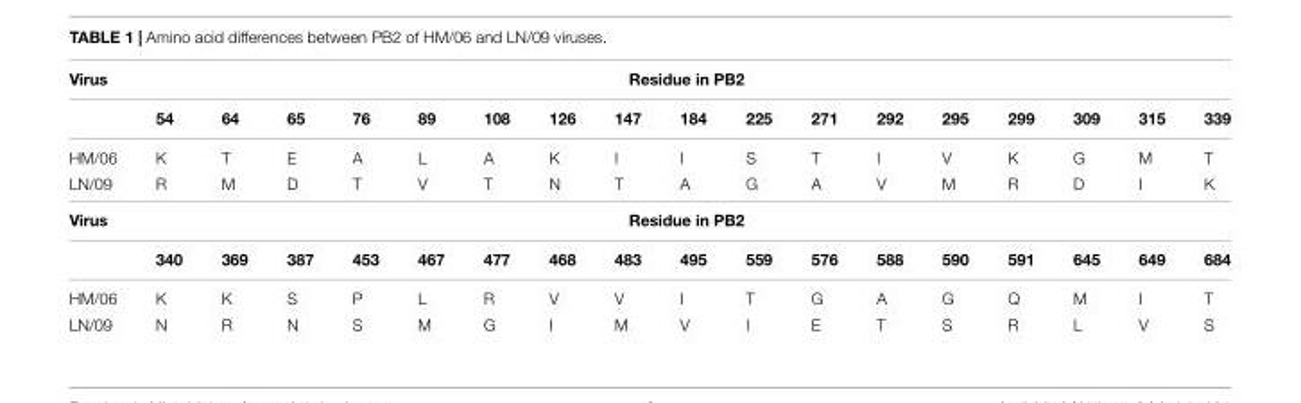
<table><thead><tr><td rowspan="2">Virus</td><td colspan="17">Residue in PB2</td></tr><tr><td>54</td><td>64</td><td>65</td><td>76</td><td>89</td><td>108</td><td>126</td><td>147</td><td>184</td><td>225</td><td>271</td><td>292</td><td>295</td><td>299</td><td>309</td><td>315</td><td>339</td></tr></thead><tbody><tr><td>HM/06</td><td>K</td><td>T</td><td>E</td><td>A</td><td>L</td><td>A</td><td>K</td><td>I</td><td>I</td><td>S</td><td>T</td><td>I</td><td>V</td><td>K</td><td>G</td><td>M</td><td>T</td></tr><tr><td>LN/09</td><td>R</td><td>M</td><td>D</td><td>T</td><td>V</td><td>T</td><td>N</td><td>T</td><td>A</td><td>G</td><td>A</td><td>V</td><td>M</td><td>R</td><td>D</td><td>I</td><td>K</td></tr><tr><td rowspan="2">Virus</td><td colspan="17">Residue in PB2</td></tr><tr><td>340</td><td>369</td><td>387</td><td>453</td><td>467</td><td>477</td><td>468</td><td>483</td><td>495</td><td>559</td><td>576</td><td>588</td><td>590</td><td>591</td><td>645</td><td>649</td><td>684</td></tr><tr><td>HM/06</td><td>K</td><td>K</td><td>S</td><td>P</td><td>L</td><td>R</td><td>V</td><td>V</td><td>I</td><td>T</td><td>G</td><td>A</td><td>G</td><td>Q</td><td>M</td><td>I</td><td>T</td></tr><tr><td>LN/09</td><td>N</td><td>R</td><td>N</td><td>S</td><td>M</td><td>G</td><td>I</td><td>M</td><td>V</td><td>I</td><td>E</td><td>T</td><td>S</td><td>R</td><td>L</td><td>V</td><td>S</td></tr></tbody></table>